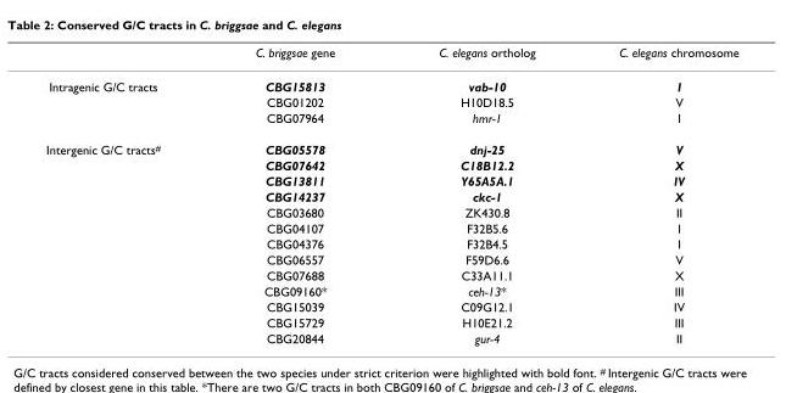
<table><thead><tr><td></td><td>C. briggsae gene</td><td>C. elegans ortholog</td><td>C. elegans chromosome</td></tr></thead><tbody><tr><td rowspan="3">Intragenic G/C tracts</td><td>CBG15813</td><td>vab-10</td><td>I</td></tr><tr><td>CBG01202</td><td>H10D18.5</td><td>V</td></tr><tr><td>CBG07964</td><td>hmr-1</td><td>I</td></tr><tr><td rowspan="13">Intergenic G/C tracts<sup>#</sup></td><td>CBG05578</td><td>dnj-25</td><td>V</td></tr><tr><td>CBG07642</td><td>C18B12.2</td><td>X</td></tr><tr><td>CBG13811</td><td>Y65A5A.1</td><td>IV</td></tr><tr><td>CBG14237</td><td>ckc-1</td><td>X</td></tr><tr><td>CBG03680</td><td>ZK430.8</td><td>II</td></tr><tr><td>CBG04107</td><td>F32B5.6</td><td>I</td></tr><tr><td>CBG04376</td><td>F32B4.5</td><td>I</td></tr><tr><td>CBG06557</td><td>F59D6.6</td><td>V</td></tr><tr><td>CBG07688</td><td>C33A11.1</td><td>X</td></tr><tr><td>CBG09160*</td><td>ceh-13*</td><td>III</td></tr><tr><td>CBG15039</td><td>C09G12.1</td><td>IV</td></tr><tr><td>CBG15729</td><td>H10E21.2</td><td>III</td></tr><tr><td>CBG20844</td><td>gur-4</td><td>II</td></tr></tbody></table>